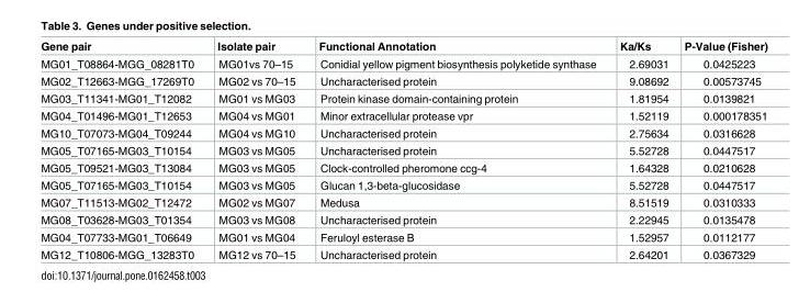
<table><thead><tr><td>Gene pair</td><td>Isolate pair</td><td>Functional Annotation</td><td>Ka/Ks</td><td>P-Value (Fisher)</td></tr></thead><tbody><tr><td>MG01_T08864-MGG_08281T0</td><td>MG01vs 70–15</td><td>Conidial yellow pigment biosynthesis polyketide synthase</td><td>2.69031</td><td>0.0425223</td></tr><tr><td>MG02_T12663-MGG_17269T0</td><td>MG02 vs 70–15</td><td>Uncharacterised protein</td><td>9.08692</td><td>0.00573745</td></tr><tr><td>MG03_T11341-MG01_T12082</td><td>MG01 vs MG03</td><td>Protein kinase domain-containing protein</td><td>1.81954</td><td>0.0139821</td></tr><tr><td>MG04_T01496-MG01_T12653</td><td>MG04 vs MG01</td><td>Minor extracellular protease vpr</td><td>1.52119</td><td>0.000178351</td></tr><tr><td>MG10_T07073-MG04_T09244</td><td>MG04 vs MG10</td><td>Uncharacterised protein</td><td>2.75634</td><td>0.0316628</td></tr><tr><td>MG05_T07165-MG03_T10154</td><td>MG03 vs MG05</td><td>Uncharacterised protein</td><td>5.52728</td><td>0.0447517</td></tr><tr><td>MG05_T09521-MG03_T13084</td><td>MG03 vs MG05</td><td>Clock-controlled pheromone ccg-4</td><td>1.64328</td><td>0.0210628</td></tr><tr><td>MG05_T07165-MG03_T10154</td><td>MG03 vs MG05</td><td>Glucan 1,3-beta-glucosidase</td><td>5.52728</td><td>0.0447517</td></tr><tr><td>MG07_T11513-MG02_T12472</td><td>MG02 vs MG07</td><td>Medusa</td><td>8.51519</td><td>0.0310333</td></tr><tr><td>MG08_T03628-MG03_T01354</td><td>MG03 vs MG08</td><td>Uncharacterised protein</td><td>2.22945</td><td>0.0135478</td></tr><tr><td>MG04_T07733-MG01_T06649</td><td>MG01 vs MG04</td><td>Feruloyl esterase B</td><td>1.52957</td><td>0.0112177</td></tr><tr><td>MG12_T10806-MGG_13283T0</td><td>MG12 vs 70–15</td><td>Uncharacterised protein</td><td>2.64201</td><td>0.0367329</td></tr></tbody></table>